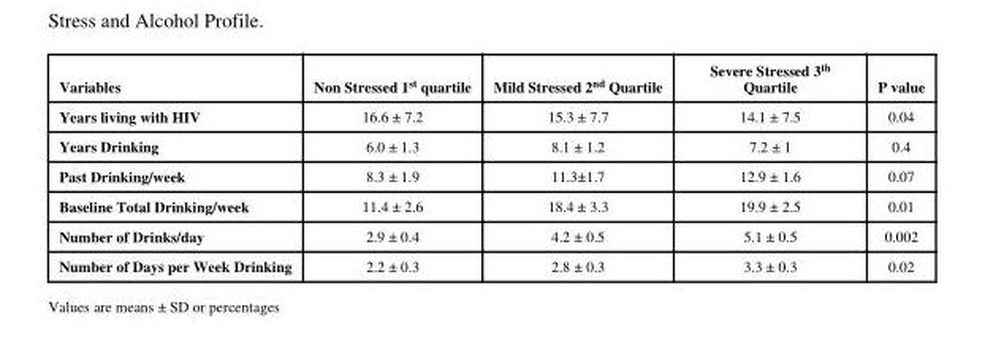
<table><thead><tr><td>Variables</td><td>Non Stressed 1<sup>st</sup> quartile</td><td>Mild Stressed 2<sup>nd</sup> Quartile</td><td>Severe Stressed 3<sup>th</sup> Quartile</td><td>P value</td></tr></thead><tbody><tr><td>Years living with HIV</td><td>16.6 ± 7.2</td><td>15.3 ± 7.7</td><td>14.1 ± 7.5</td><td>0.04</td></tr><tr><td>Years Drinking</td><td>6.0 ± 1.3</td><td>8.1 ± 1.2</td><td>7.2 ± 1</td><td>0.4</td></tr><tr><td>Past Drinking/week</td><td>8.3 ± 1.9</td><td>11.3±1.7</td><td>12.9 ± 1.6</td><td>0.07</td></tr><tr><td>Baseline Total Drinking/week</td><td>11.4 ± 2.6</td><td>18.4 ± 3.3</td><td>19.9 ± 2.5</td><td>0.01</td></tr><tr><td>Number of Drinks/day</td><td>2.9 ± 0.4</td><td>4.2 ± 0.5</td><td>5.1 ± 0.5</td><td>0.002</td></tr><tr><td>Number of Days per Week Drinking</td><td>2.2 ± 0.3</td><td>2.8 ± 0.3</td><td>3.3 ± 0.3</td><td>0.02</td></tr></tbody></table>